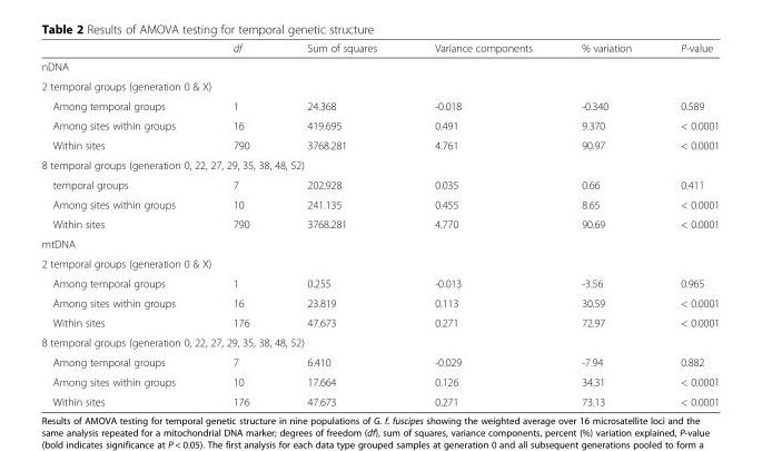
<table><thead><tr><td></td><td>df</td><td>Sum of squares</td><td>Variance components</td><td>% variation</td><td>P-value</td></tr></thead><tbody><tr><td colspan="6">nDNA</td></tr><tr><td colspan="6">2 temporal groups (generation 0 &amp; X)</td></tr><tr><td>Among temporal groups</td><td>1</td><td>24.368</td><td>-0.018</td><td>-0.340</td><td>0.589</td></tr><tr><td>Among sites within groups</td><td>16</td><td>419.695</td><td>0.491</td><td>9.370</td><td>&lt; 0.0001</td></tr><tr><td>Within sites</td><td>790</td><td>3768.281</td><td>4.761</td><td>90.97</td><td>&lt; 0.0001</td></tr><tr><td colspan="6">8 temporal groups (generation 0, 22, 27, 29, 35, 38, 48, 52)</td></tr><tr><td>temporal groups</td><td>7</td><td>202.928</td><td>0.035</td><td>0.66</td><td>0.411</td></tr><tr><td>Among sites within groups</td><td>10</td><td>241.135</td><td>0.455</td><td>8.65</td><td>&lt; 0.0001</td></tr><tr><td>Within sites</td><td>790</td><td>3768.281</td><td>4.770</td><td>90.69</td><td>&lt; 0.0001</td></tr><tr><td colspan="6">mtDNA</td></tr><tr><td colspan="6">2 temporal groups (generation 0 &amp; X)</td></tr><tr><td>Among temporal groups</td><td>1</td><td>0.255</td><td>-0.013</td><td>-3.56</td><td>0.965</td></tr><tr><td>Among sites within groups</td><td>16</td><td>23.819</td><td>0.113</td><td>30.59</td><td>&lt; 0.0001</td></tr><tr><td>Within sites</td><td>176</td><td>47.673</td><td>0.271</td><td>72.97</td><td>&lt; 0.0001</td></tr><tr><td colspan="6">8 temporal groups (generation 0, 22, 27, 29, 35, 38, 48, 52)</td></tr><tr><td>Among temporal groups</td><td>7</td><td>6.410</td><td>-0.029</td><td>-7.94</td><td>0.882</td></tr><tr><td>Among sites within groups</td><td>10</td><td>17.664</td><td>0.126</td><td>34.31</td><td>&lt; 0.0001</td></tr><tr><td>Within sites</td><td>176</td><td>47.673</td><td>0.271</td><td>73.13</td><td>&lt; 0.0001</td></tr></tbody></table>